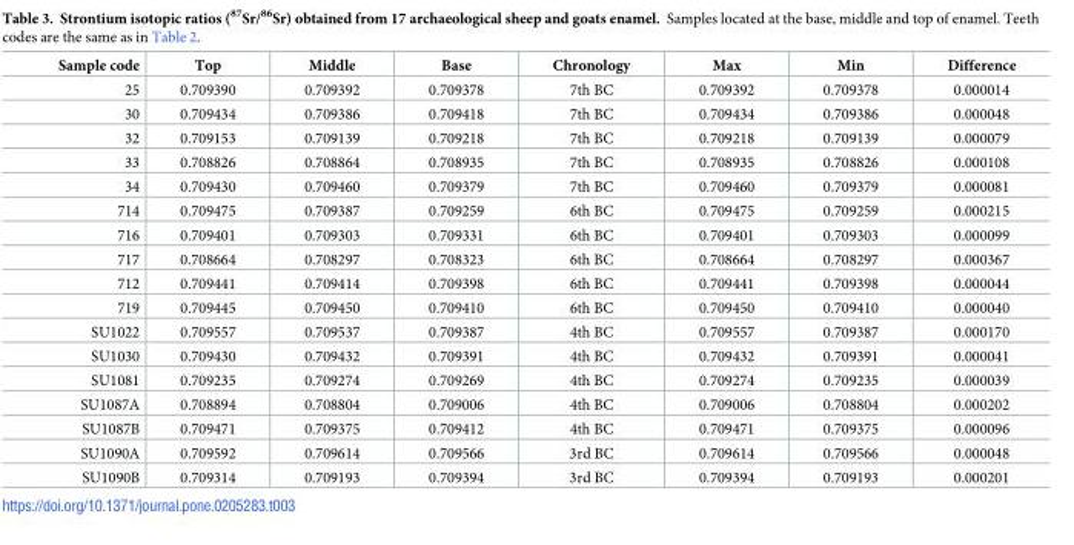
<table><thead><tr><td>Sample code</td><td>Top</td><td>Middle</td><td>Base</td><td>Chronology</td><td>Max</td><td>Min</td><td>Difference</td></tr></thead><tbody><tr><td>25</td><td>0.709390</td><td>0.709392</td><td>0.709378</td><td>7th BC</td><td>0.709392</td><td>0.709378</td><td>0.000014</td></tr><tr><td>30</td><td>0.709434</td><td>0.709386</td><td>0.709418</td><td>7th BC</td><td>0.709434</td><td>0.709386</td><td>0.000048</td></tr><tr><td>32</td><td>0.709153</td><td>0.709139</td><td>0.709218</td><td>7th BC</td><td>0.709218</td><td>0.709139</td><td>0.000079</td></tr><tr><td>33</td><td>0.708826</td><td>0.708864</td><td>0.708935</td><td>7th BC</td><td>0.708935</td><td>0.708826</td><td>0.000108</td></tr><tr><td>34</td><td>0.709430</td><td>0.709460</td><td>0.709379</td><td>7th BC</td><td>0.709460</td><td>0.709379</td><td>0.000081</td></tr><tr><td>714</td><td>0.709475</td><td>0.709387</td><td>0.709259</td><td>6th BC</td><td>0.709475</td><td>0.709259</td><td>0.000215</td></tr><tr><td>716</td><td>0.709401</td><td>0.709303</td><td>0.709331</td><td>6th BC</td><td>0.709401</td><td>0.709303</td><td>0.000099</td></tr><tr><td>717</td><td>0.708664</td><td>0.708297</td><td>0.708323</td><td>6th BC</td><td>0.708664</td><td>0.708297</td><td>0.000367</td></tr><tr><td>712</td><td>0.709441</td><td>0.709414</td><td>0.709398</td><td>6th BC</td><td>0.709441</td><td>0.709398</td><td>0.000044</td></tr><tr><td>719</td><td>0.709445</td><td>0.709450</td><td>0.709410</td><td>6th BC</td><td>0.709450</td><td>0.709410</td><td>0.000040</td></tr><tr><td>SU1022</td><td>0.709557</td><td>0.709537</td><td>0.709387</td><td>4th BC</td><td>0.709557</td><td>0.709387</td><td>0.000170</td></tr><tr><td>SU1030</td><td>0.709430</td><td>0.709432</td><td>0.709391</td><td>4th BC</td><td>0.709432</td><td>0.709391</td><td>0.000041</td></tr><tr><td>SU1081</td><td>0.709235</td><td>0.709274</td><td>0.709269</td><td>4th BC</td><td>0.709274</td><td>0.709235</td><td>0.000039</td></tr><tr><td>SU1087A</td><td>0.708894</td><td>0.708804</td><td>0.709006</td><td>4th BC</td><td>0.709006</td><td>0.708804</td><td>0.000202</td></tr><tr><td>SU1087B</td><td>0.709471</td><td>0.709375</td><td>0.709412</td><td>4th BC</td><td>0.709471</td><td>0.709375</td><td>0.000096</td></tr><tr><td>SU1090A</td><td>0.709592</td><td>0.709614</td><td>0.709566</td><td>3rd BC</td><td>0.709614</td><td>0.709566</td><td>0.000048</td></tr><tr><td>SU1090B</td><td>0.709314</td><td>0.709193</td><td>0.709394</td><td>3rd BC</td><td>0.709394</td><td>0.709193</td><td>0.000201</td></tr></tbody></table>